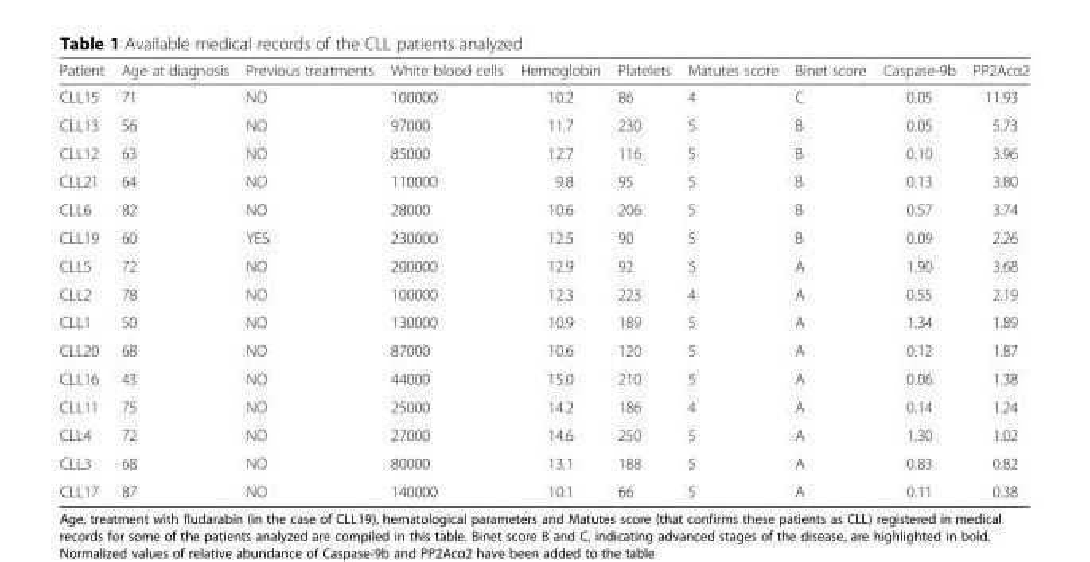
<table><thead><tr><td>Patient</td><td>Age at diagnosis</td><td>Previous treatments</td><td>White blood cells</td><td>Hemoglobin</td><td>Platelets</td><td>Matutes score</td><td>Binet score</td><td>Caspase-9b</td><td>PP2Acα2</td></tr></thead><tbody><tr><td>CLL15</td><td>71</td><td>NO</td><td>100000</td><td>10.2</td><td>86</td><td>4</td><td>C</td><td>0.05</td><td>11.93</td></tr><tr><td>CLL13</td><td>56</td><td>NO</td><td>97000</td><td>11.7</td><td>230</td><td>5</td><td>B</td><td>0.05</td><td>5.73</td></tr><tr><td>CLL12</td><td>63</td><td>NO</td><td>85000</td><td>12.7</td><td>116</td><td>5</td><td>B</td><td>0.10</td><td>3.96</td></tr><tr><td>CLL21</td><td>64</td><td>NO</td><td>110000</td><td>9.8</td><td>95</td><td>5</td><td>B</td><td>0.13</td><td>3.80</td></tr><tr><td>CLL6</td><td>82</td><td>NO</td><td>28000</td><td>10.6</td><td>206</td><td>5</td><td>B</td><td>0.57</td><td>3.74</td></tr><tr><td>CLL19</td><td>60</td><td>YES</td><td>230000</td><td>12.5</td><td>90</td><td>5</td><td>B</td><td>0.09</td><td>2.26</td></tr><tr><td>CLL5</td><td>72</td><td>NO</td><td>200000</td><td>12.9</td><td>92</td><td>5</td><td>A</td><td>1.90</td><td>3.68</td></tr><tr><td>CLL2</td><td>78</td><td>NO</td><td>100000</td><td>12.3</td><td>223</td><td>4</td><td>A</td><td>0.55</td><td>2.19</td></tr><tr><td>CLL1</td><td>50</td><td>NO</td><td>130000</td><td>10.9</td><td>189</td><td>5</td><td>A</td><td>1.34</td><td>1.89</td></tr><tr><td>CLL20</td><td>68</td><td>NO</td><td>87000</td><td>10.6</td><td>120</td><td>5</td><td>A</td><td>0.12</td><td>1.87</td></tr><tr><td>CLL16</td><td>43</td><td>NO</td><td>44000</td><td>15.0</td><td>210</td><td>5</td><td>A</td><td>0.06</td><td>1.38</td></tr><tr><td>CLL11</td><td>75</td><td>NO</td><td>25000</td><td>14.2</td><td>186</td><td>4</td><td>A</td><td>0.14</td><td>1.24</td></tr><tr><td>CLL4</td><td>72</td><td>NO</td><td>27000</td><td>14.6</td><td>250</td><td>5</td><td>A</td><td>1.30</td><td>1.02</td></tr><tr><td>CLL3</td><td>68</td><td>NO</td><td>80000</td><td>13.1</td><td>188</td><td>5</td><td>A</td><td>0.83</td><td>0.82</td></tr><tr><td>CLL17</td><td>87</td><td>NO</td><td>140000</td><td>10.1</td><td>66</td><td>5</td><td>A</td><td>0.11</td><td>0.38</td></tr></tbody></table>